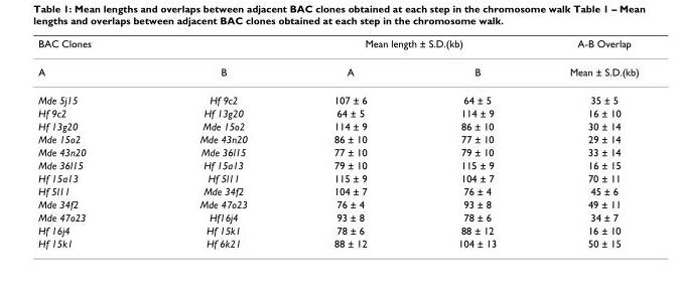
<table><thead><tr><td colspan="2">BAC Clones</td><td colspan="2">Mean length ± S.D.(kb)</td><td rowspan="2">A-B Overlap Mean ± S.D.(kb)</td></tr><tr><td>A</td><td>B</td><td>A</td><td>B</td></tr></thead><tbody><tr><td>Mde 5j15</td><td>Hf 9c2</td><td>107 ± 6</td><td>64 ± 5</td><td>35 ± 5</td></tr><tr><td>Hf 9c2</td><td>Hf 13g20</td><td>64 ± 5</td><td>114 ± 9</td><td>16 ± 10</td></tr><tr><td>Hf 13g20</td><td>Mde 15o2</td><td>114 ± 9</td><td>86 ± 10</td><td>30 ± 14</td></tr><tr><td>Mde 15o2</td><td>Mde 43n20</td><td>86 ± 10</td><td>77 ± 10</td><td>29 ± 14</td></tr><tr><td>Mde 43n20</td><td>Mde 36l15</td><td>77 ± 10</td><td>79 ± 10</td><td>33 ± 14</td></tr><tr><td>Mde 36l15</td><td>Hf 15a13</td><td>79 ± 10</td><td>115 ± 9</td><td>16 ± 15</td></tr><tr><td>Hf 15a13</td><td>Hf 5l11</td><td>115 ± 9</td><td>104 ± 7</td><td>70 ± 11</td></tr><tr><td>Hf 5l11</td><td>Mde 34f2</td><td>104 ± 7</td><td>76 ± 4</td><td>45 ± 6</td></tr><tr><td>Mde 34f2</td><td>Mde 47o23</td><td>76 ± 4</td><td>93 ± 8</td><td>49 ± 11</td></tr><tr><td>Mde 47o23</td><td>Hf16j4</td><td>93 ± 8</td><td>78 ± 6</td><td>34 ± 7</td></tr><tr><td>Hf 16j4</td><td>Hf 15k1</td><td>78 ± 6</td><td>88 ± 12</td><td>16 ± 10</td></tr><tr><td>Hf 15k1</td><td>Hf 6k21</td><td>88 ± 12</td><td>104 ± 13</td><td>50 ± 15</td></tr></tbody></table>